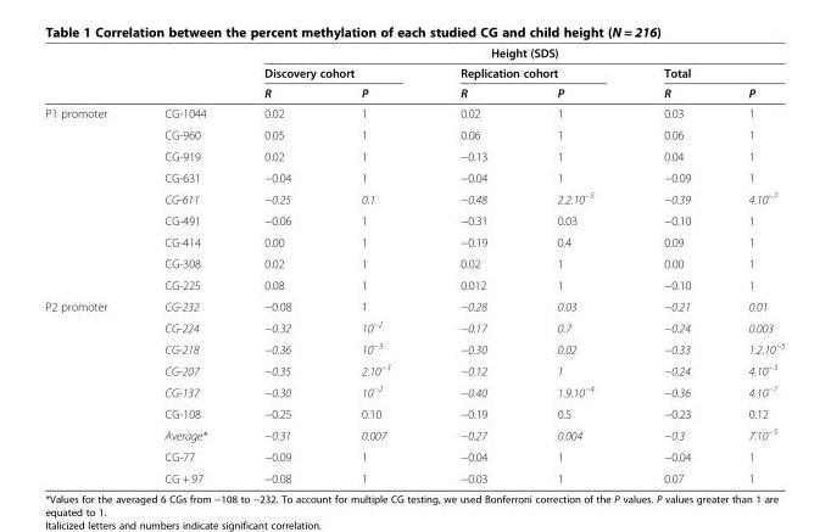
<table><thead><tr><td rowspan="3"></td><td rowspan="3"></td><td colspan="6">Height (SDS)</td></tr><tr><td colspan="2">Discovery cohort</td><td colspan="2">Replication cohort</td><td colspan="2">Total</td></tr><tr><td>R</td><td>P</td><td>R</td><td>P</td><td>R</td><td>P</td></tr></thead><tbody><tr><td rowspan="9">P1 promoter</td><td>CG-1044</td><td>0.02</td><td>1</td><td>0.02</td><td>1</td><td>0.03</td><td>1</td></tr><tr><td>CG-960</td><td>0.05</td><td>1</td><td>0.06</td><td>1</td><td>0.06</td><td>1</td></tr><tr><td>CG-919</td><td>0.02</td><td>1</td><td>−0.13</td><td>1</td><td>0.04</td><td>1</td></tr><tr><td>CG-631</td><td>−0.04</td><td>1</td><td>−0.04</td><td>1</td><td>−0.09</td><td>1</td></tr><tr><td>CG-611</td><td>−0.25</td><td>0.1</td><td>−0.48</td><td>2.2.10<sup>−5</sup></td><td>−0.39</td><td>4.10<sup>−7</sup></td></tr><tr><td>CG-491</td><td>−0.06</td><td>1</td><td>−0.31</td><td>0.03</td><td>−0.10</td><td>1</td></tr><tr><td>CG-414</td><td>0.00</td><td>1</td><td>−0.19</td><td>0.4</td><td>0.09</td><td>1</td></tr><tr><td>CG-308</td><td>0.02</td><td>1</td><td>0.02</td><td>1</td><td>0.00</td><td>1</td></tr><tr><td>CG-225</td><td>0.08</td><td>1</td><td>0.012</td><td>1</td><td>−0.10</td><td>1</td></tr><tr><td rowspan="9">P2 promoter</td><td>CG-232</td><td>−0.08</td><td>1</td><td>−0.28</td><td>0.03</td><td>−0.21</td><td>0.01</td></tr><tr><td>CG-224</td><td>−0.32</td><td>10<sup>−2</sup></td><td>−0.17</td><td>0.7</td><td>−0.24</td><td>0.003</td></tr><tr><td>CG-218</td><td>−0.36</td><td>10<sup>−3</sup></td><td>−0.30</td><td>0.02</td><td>−0.33</td><td>1.2.10<sup>−5</sup></td></tr><tr><td>CG-207</td><td>−0.35</td><td>2.10<sup>−3</sup></td><td>−0.12</td><td>1</td><td>−0.24</td><td>4.10<sup>−3</sup></td></tr><tr><td>CG-137</td><td>−0.30</td><td>10<sup>−2</sup></td><td>−0.40</td><td>1.9.10<sup>−4</sup></td><td>−0.36</td><td>4.10<sup>−7</sup></td></tr><tr><td>CG-108</td><td>−0.25</td><td>0.10</td><td>−0.19</td><td>0.5</td><td>−0.23</td><td>0.12</td></tr><tr><td>Average*</td><td>−0.31</td><td>0.007</td><td>−0.27</td><td>0.004</td><td>−0.3</td><td>7.10<sup>−5</sup></td></tr><tr><td>CG-77</td><td>−0.09</td><td>1</td><td>−0.04</td><td>1</td><td>−0.04</td><td>1</td></tr><tr><td>CG + 97</td><td>−0.08</td><td>1</td><td>−0.03</td><td>1</td><td>0.07</td><td>1</td></tr></tbody></table>